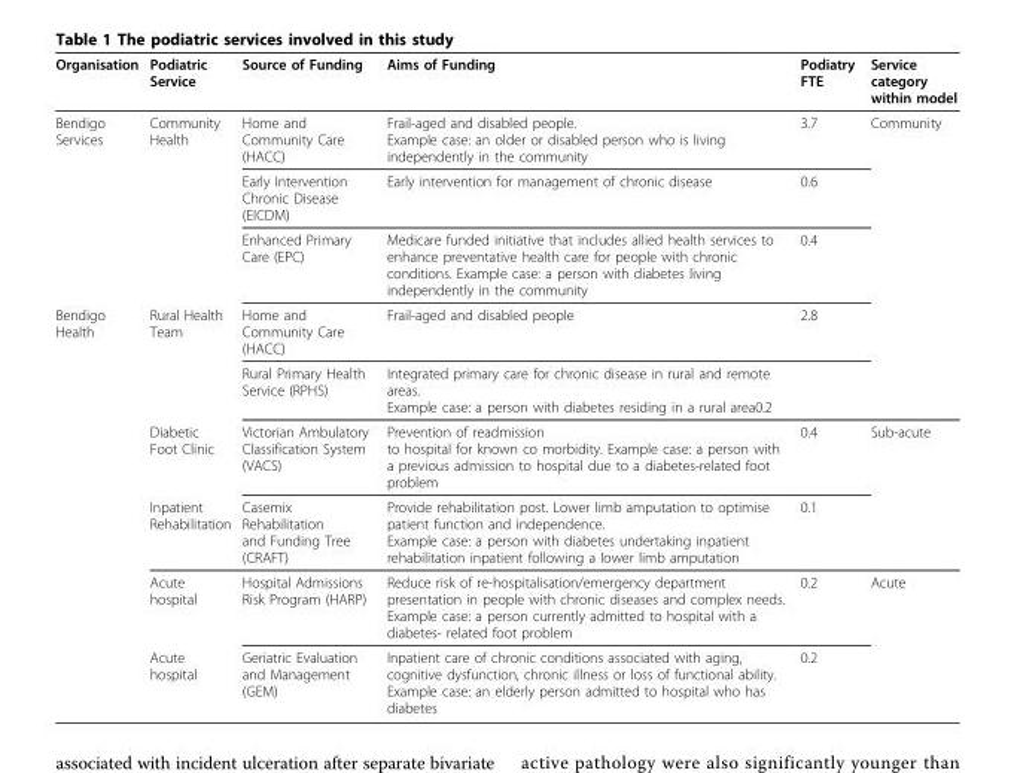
<table><thead><tr><td>Organisation</td><td>Podiatric Service</td><td>Source of Funding</td><td>Aims of Funding</td><td>Podiatry FTE</td><td>Service category within model</td></tr></thead><tbody><tr><td rowspan="3">Bendigo Services</td><td>Community Health</td><td>Home and Community Care (HACC)</td><td>Frail-aged and disabled people. Example case: an older or disabled person who is living independently in the community</td><td>3.7</td><td>Community</td></tr><tr><td></td><td>Early Intervention Chronic Disease (EICDM)</td><td>Early intervention for management of chronic disease</td><td>0.6</td><td></td></tr><tr><td></td><td>Enhanced Primary Care (EPC)</td><td>Medicare funded initiative that includes allied health services to enhance preventative health care for people with chronic conditions. Example case: a person with diabetes living independently in the community</td><td>0.4</td><td></td></tr><tr><td rowspan="6">Bendigo Health</td><td>Rural Health Team</td><td>Home and Community Care (HACC)</td><td>Frail-aged and disabled people</td><td>2.8</td><td></td></tr><tr><td></td><td>Rural Primary Health Service (RPHS)</td><td>Integrated primary care for chronic disease in rural and remote areas. Example case: a person with diabetes residing in a rural area0.2</td><td></td><td></td></tr><tr><td>Diabetic Foot Clinic</td><td>Victorian Ambulatory Classification System (VACS)</td><td>Prevention of readmission to hospital for known co morbidity. Example case: a person with a previous admission to hospital due to a diabetes-related foot problem</td><td>0.4</td><td>Sub-acute</td></tr><tr><td>Inpatient Rehabilitation</td><td>Casemix Rehabilitation and Funding Tree (CRAFT)</td><td>Provide rehabilitation post. Lower limb amputation to optimise patient function and independence. Example case: a person with diabetes undertaking inpatient rehabilitation inpatient following a lower limb amputation</td><td>0.1</td><td></td></tr><tr><td>Acute hospital</td><td>Hospital Admissions Risk Program (HARP)</td><td>Reduce risk of re-hospitalisation/emergency department presentation in people with chronic diseases and complex needs. Example case: a person currently admitted to hospital with a diabetes- related foot problem</td><td>0.2</td><td>Acute</td></tr><tr><td>Acute hospital</td><td>Geriatric Evaluation and Management (GEM)</td><td>Inpatient care of chronic conditions associated with aging, cognitive dysfunction, chronic illness or loss of functional ability. Example case: an elderly person admitted to hospital who has diabetes</td><td>0.2</td><td></td></tr></tbody></table>